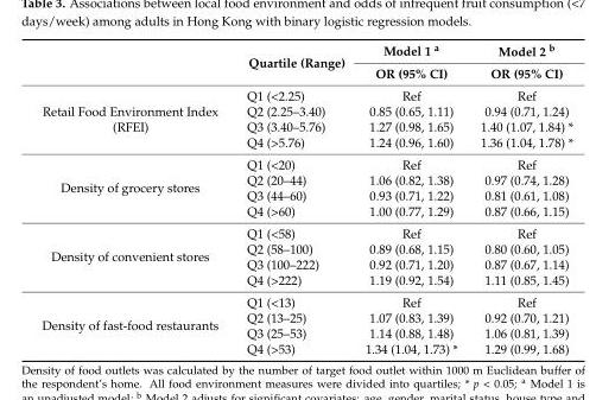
<table><thead><tr><td rowspan="2"></td><td rowspan="2">Quartile (Range)</td><td rowspan="2">Model 1 <sup>a</sup> OR (95% CI)</td><td rowspan="2">Model 2 <sup>b</sup> OR (95% CI)</td></tr><tr></tr></thead><tbody><tr><td rowspan="4">Retail Food Environment Index (RFEI)</td><td>Q1 (&lt;2.25)</td><td>Ref</td><td>Ref</td></tr><tr><td>Q2 (2.25–3.40)</td><td>0.85 (0.65, 1.11)</td><td>0.94 (0.71, 1.24)</td></tr><tr><td>Q3 (3.40–5.76)</td><td>1.27 (0.98, 1.65)</td><td>1.40 (1.07, 1.84) *</td></tr><tr><td>Q4 (&gt;5.76)</td><td>1.24 (0.96, 1.60)</td><td>1.36 (1.04, 1.78) *</td></tr><tr><td rowspan="4">Density of grocery stores</td><td>Q1 (&lt;20)</td><td>Ref</td><td>Ref</td></tr><tr><td>Q2 (20–44)</td><td>1.06 (0.82, 1.38)</td><td>0.97 (0.74, 1.28)</td></tr><tr><td>Q3 (44–60)</td><td>0.93 (0.71, 1.22)</td><td>0.81 (0.61, 1.08)</td></tr><tr><td>Q4 (&gt;60)</td><td>1.00 (0.77, 1.29)</td><td>0.87 (0.66, 1.15)</td></tr><tr><td rowspan="4">Density of convenient stores</td><td>Q1 (&lt;58)</td><td>Ref</td><td>Ref</td></tr><tr><td>Q2 (58–100)</td><td>0.89 (0.68, 1.15)</td><td>0.80 (0.60, 1.05)</td></tr><tr><td>Q3 (100–222)</td><td>0.92 (0.71, 1.20)</td><td>0.87 (0.67, 1.14)</td></tr><tr><td>Q4 (&gt;222)</td><td>1.19 (0.92, 1.54)</td><td>1.11 (0.85, 1.45)</td></tr><tr><td rowspan="4">Density of fast-food restaurants</td><td>Q1 (&lt;13)</td><td>Ref</td><td>Ref</td></tr><tr><td>Q2 (13–25)</td><td>1.07 (0.83, 1.39)</td><td>0.92 (0.70, 1.21)</td></tr><tr><td>Q3 (25–53)</td><td>1.14 (0.88, 1.48)</td><td>1.06 (0.81, 1.39)</td></tr><tr><td>Q4 (&gt;53)</td><td>1.34 (1.04, 1.73) *</td><td>1.29 (0.99, 1.68)</td></tr></tbody></table>